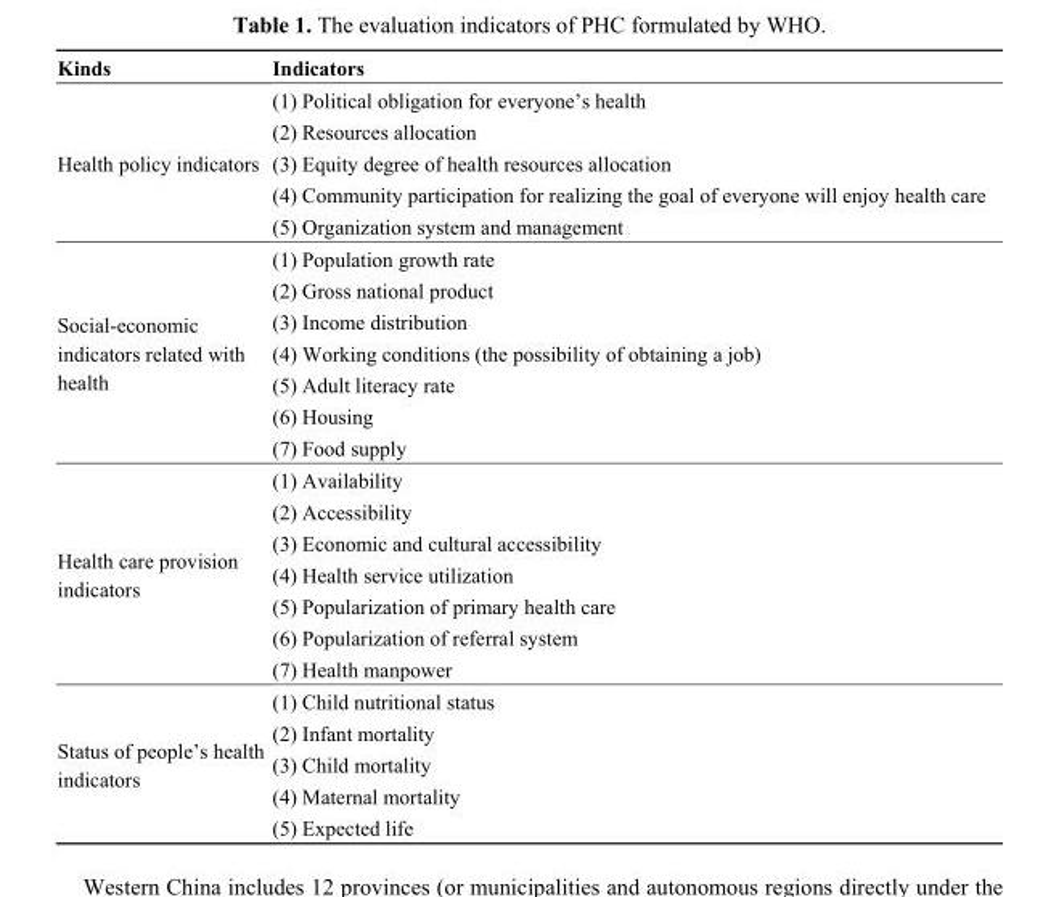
<table><thead><tr><td>Kinds</td><td>Indicators</td></tr></thead><tbody><tr><td rowspan="5">Health policy indicators</td><td>(1) Political obligation for everyone’s health</td></tr><tr><td>(2) Resources allocation</td></tr><tr><td>(3) Equity degree of health resources allocation</td></tr><tr><td>(4) Community participation for realizing the goal of everyone will enjoy health care</td></tr><tr><td>(5) Organization system and management</td></tr><tr><td rowspan="7">Social-economic indicators related with health</td><td>(1) Population growth rate</td></tr><tr><td>(2) Gross national product</td></tr><tr><td>(3) Income distribution</td></tr><tr><td>(4) Working conditions (the possibility of obtaining a job)</td></tr><tr><td>(5) Adult literacy rate</td></tr><tr><td>(6) Housing</td></tr><tr><td>(7) Food supply</td></tr><tr><td rowspan="7">Health care provision indicators</td><td>(1) Availability</td></tr><tr><td>(2) Accessibility</td></tr><tr><td>(3) Economic and cultural accessibility</td></tr><tr><td>(4) Health service utilization</td></tr><tr><td>(5) Popularization of primary health care</td></tr><tr><td>(6) Popularization of referral system</td></tr><tr><td>(7) Health manpower</td></tr><tr><td rowspan="5">Status of people’s health indicators</td><td>(1) Child nutritional status</td></tr><tr><td>(2) Infant mortality</td></tr><tr><td>(3) Child mortality</td></tr><tr><td>(4) Maternal mortality</td></tr><tr><td>(5) Expected life</td></tr></tbody></table>